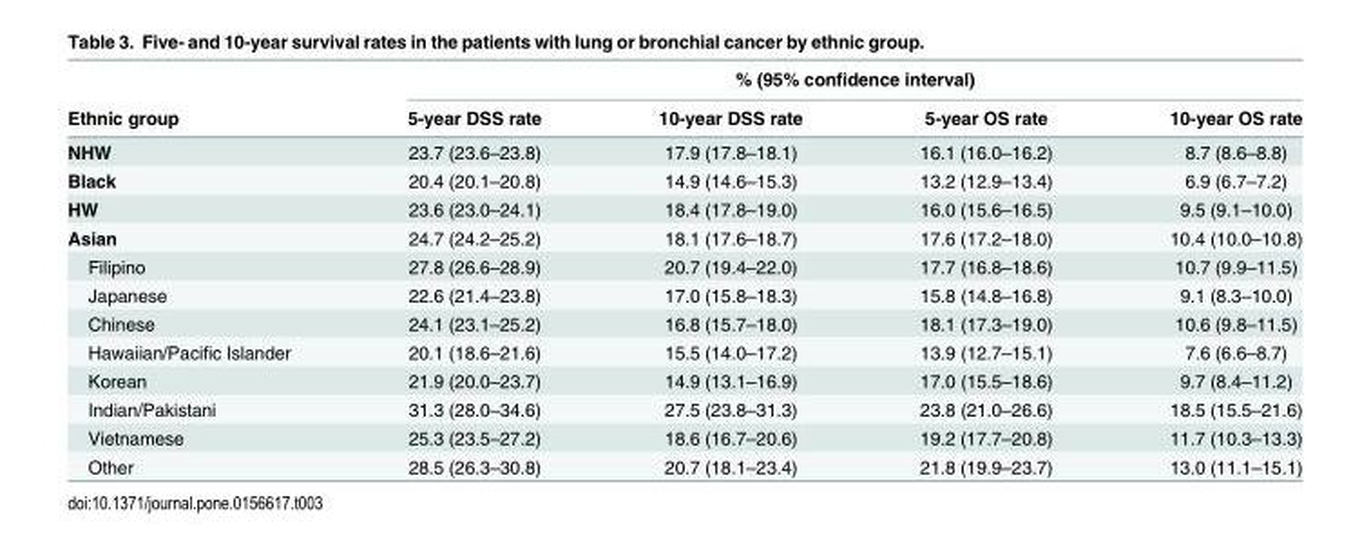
<table><thead><tr><td rowspan="2">Ethnic group</td><td colspan="4">% (95% confidence interval)</td></tr><tr><td>5-year DSS rate</td><td>10-year DSS rate</td><td>5-year OS rate</td><td>10-year OS rate</td></tr></thead><tbody><tr><td>NHW</td><td>23.7 (23.6–23.8)</td><td>17.9 (17.8–18.1)</td><td>16.1 (16.0–16.2)</td><td>8.7 (8.6–8.8)</td></tr><tr><td>Black</td><td>20.4 (20.1–20.8)</td><td>14.9 (14.6–15.3)</td><td>13.2 (12.9–13.4)</td><td>6.9 (6.7–7.2)</td></tr><tr><td>HW</td><td>23.6 (23.0–24.1)</td><td>18.4 (17.8–19.0)</td><td>16.0 (15.6–16.5)</td><td>9.5 (9.1–10.0)</td></tr><tr><td>Asian</td><td>24.7 (24.2–25.2)</td><td>18.1 (17.6–18.7)</td><td>17.6 (17.2–18.0)</td><td>10.4 (10.0–10.8)</td></tr><tr><td>Filipino</td><td>27.8 (26.6–28.9)</td><td>20.7 (19.4–22.0)</td><td>17.7 (16.8–18.6)</td><td>10.7 (9.9–11.5)</td></tr><tr><td>Japanese</td><td>22.6 (21.4–23.8)</td><td>17.0 (15.8–18.3)</td><td>15.8 (14.8–16.8)</td><td>9.1 (8.3–10.0)</td></tr><tr><td>Chinese</td><td>24.1 (23.1–25.2)</td><td>16.8 (15.7–18.0)</td><td>18.1 (17.3–19.0)</td><td>10.6 (9.8–11.5)</td></tr><tr><td>Hawaiian/Pacific Islander</td><td>20.1 (18.6–21.6)</td><td>15.5 (14.0–17.2)</td><td>13.9 (12.7–15.1)</td><td>7.6 (6.6–8.7)</td></tr><tr><td>Korean</td><td>21.9 (20.0–23.7)</td><td>14.9 (13.1–16.9)</td><td>17.0 (15.5–18.6)</td><td>9.7 (8.4–11.2)</td></tr><tr><td>Indian/Pakistani</td><td>31.3 (28.0–34.6)</td><td>27.5 (23.8–31.3)</td><td>23.8 (21.0–26.6)</td><td>18.5 (15.5–21.6)</td></tr><tr><td>Vietnamese</td><td>25.3 (23.5–27.2)</td><td>18.6 (16.7–20.6)</td><td>19.2 (17.7–20.8)</td><td>11.7 (10.3–13.3)</td></tr><tr><td>Other</td><td>28.5 (26.3–30.8)</td><td>20.7 (18.1–23.4)</td><td>21.8 (19.9–23.7)</td><td>13.0 (11.1–15.1)</td></tr></tbody></table>